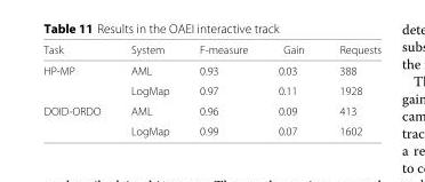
<table><thead><tr><td>Task</td><td>System</td><td>F-measure</td><td>Gain</td><td>Requests</td></tr></thead><tbody><tr><td rowspan="2">HP-MP</td><td>AML</td><td>0.93</td><td>0.03</td><td>388</td></tr><tr><td>LogMap</td><td>0.97</td><td>0.11</td><td>1928</td></tr><tr><td rowspan="2">DOID-ORDO</td><td>AML</td><td>0.96</td><td>0.09</td><td>413</td></tr><tr><td>LogMap</td><td>0.99</td><td>0.07</td><td>1602</td></tr></tbody></table>